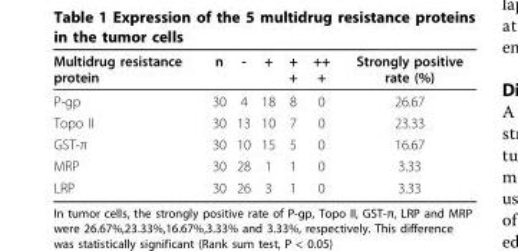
<table><thead><tr><td>Multidrug resistance protein</td><td>n</td><td>-</td><td>+</td><td>+ +</td><td>++ +</td><td>Strongly positive rate (%)</td></tr></thead><tbody><tr><td>P-gp</td><td>30</td><td>4</td><td>18</td><td>8</td><td>0</td><td>26.67</td></tr><tr><td>Topo II</td><td>30</td><td>13</td><td>10</td><td>7</td><td>0</td><td>23.33</td></tr><tr><td>GST-π</td><td>30</td><td>10</td><td>15</td><td>5</td><td>0</td><td>16.67</td></tr><tr><td>MRP</td><td>30</td><td>28</td><td>1</td><td>1</td><td>0</td><td>3.33</td></tr><tr><td>LRP</td><td>30</td><td>26</td><td>3</td><td>1</td><td>0</td><td>3.33</td></tr></tbody></table>